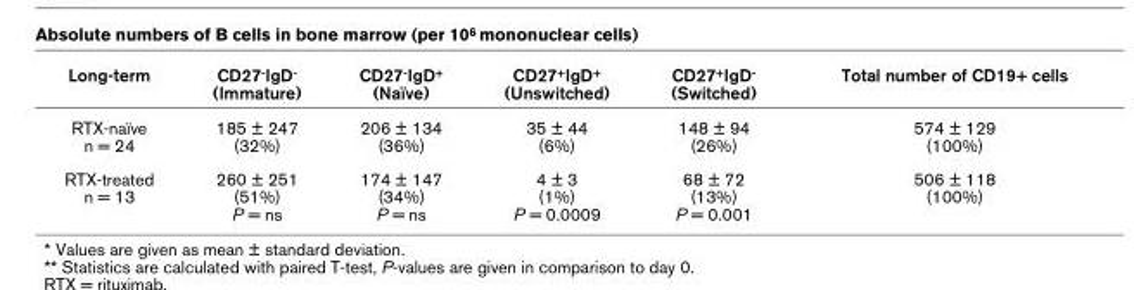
<table><thead><tr><td>Long-term</td><td>CD27<sup>-</sup>IgD<sup>-</sup> (Immature)</td><td>CD27<sup>-</sup>IgD<sup>+</sup> (Naïve)</td><td>CD27<sup>+</sup>IgD<sup>+</sup> (Unswitched)</td><td>CD27<sup>+</sup>IgD<sup>-</sup> (Switched)</td><td>Total number of CD19+ cells</td></tr></thead><tbody><tr><td>RTX-naïve n = 24</td><td>185 ± 247 (32%)</td><td>206 ± 134 (36%)</td><td>35 ± 44 (6%)</td><td>148 ± 94 (26%)</td><td>574 ± 129 (100%)</td></tr><tr><td>RTX-treated n = 13</td><td>260 ± 251 (51%) P = ns</td><td>174 ± 147 (34%) P = ns</td><td>4 ± 3 (1%) P = 0.0009</td><td>68 ± 72 (13%) P = 0.001</td><td>506 ± 118 (100%)</td></tr></tbody></table>